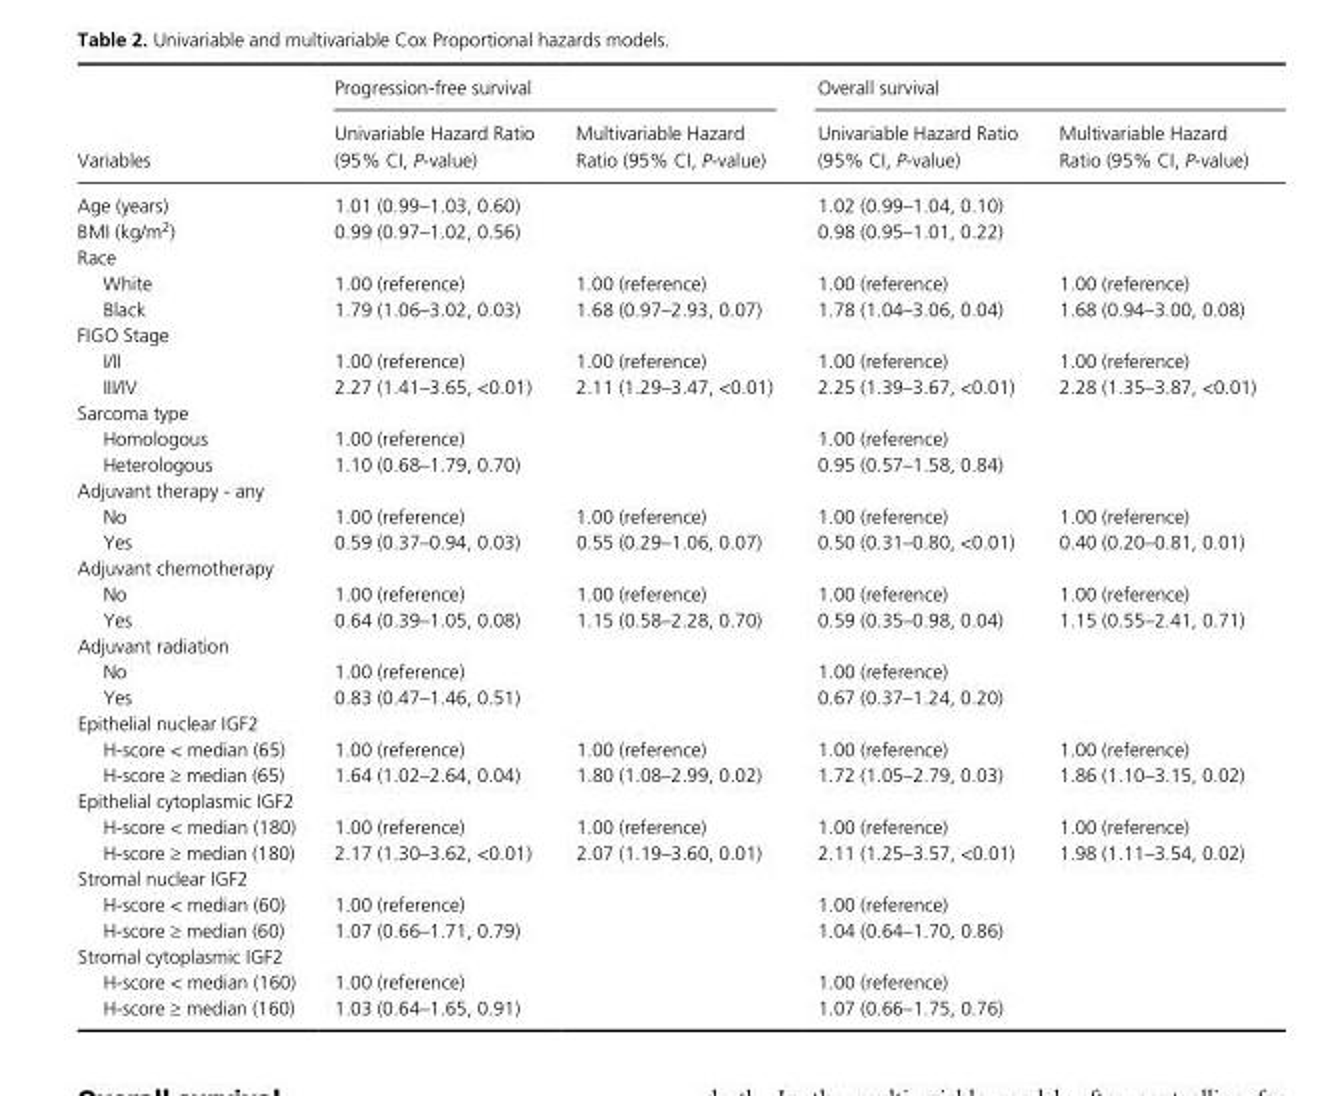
<table><thead><tr><td rowspan="2">Variables</td><td colspan="2">Progression- free survival</td><td colspan="2">Overall survival</td></tr><tr><td>Univariable Hazard Ratio (95% CI, P- value)</td><td>Multivariable Hazard Ratio (95% CI, P- value)</td><td>Univariable Hazard Ratio (95% CI, P- value)</td><td>Multivariable Hazard Ratio (95% CI, P- value)</td></tr></thead><tbody><tr><td>Age (years)</td><td>1.01 (0.99–1.03, 0.60)</td><td></td><td>1.02 (0.99–1.04, 0.10)</td><td></td></tr><tr><td>BMI (kg/m<sup>2</sup>)</td><td>0.99 (0.97–1.02, 0.56)</td><td></td><td>0.98 (0.95–1.01, 0.22)</td><td></td></tr><tr><td colspan="5">Race</td></tr><tr><td>White</td><td>1.00 (reference)</td><td>1.00 (reference)</td><td>1.00 (reference)</td><td>1.00 (reference)</td></tr><tr><td>Black</td><td>1.79 (1.06–3.02, 0.03)</td><td>1.68 (0.97–2.93, 0.07)</td><td>1.78 (1.04–3.06, 0.04)</td><td>1.68 (0.94–3.00, 0.08)</td></tr><tr><td colspan="5">FIGO Stage</td></tr><tr><td>I/II</td><td>1.00 (reference)</td><td>1.00 (reference)</td><td>1.00 (reference)</td><td>1.00 (reference)</td></tr><tr><td>III/IV</td><td>2.27 (1.41–3.65, &lt;0.01)</td><td>2.11 (1.29–3.47, &lt;0.01)</td><td>2.25 (1.39–3.67, &lt;0.01)</td><td>2.28 (1.35–3.87, &lt;0.01)</td></tr><tr><td colspan="5">Sarcoma type</td></tr><tr><td>Homologous</td><td>1.00 (reference)</td><td></td><td>1.00 (reference)</td><td></td></tr><tr><td>Heterologous</td><td>1.10 (0.68–1.79, 0.70)</td><td></td><td>0.95 (0.57–1.58, 0.84)</td><td></td></tr><tr><td colspan="5">Adjuvant therapy - any</td></tr><tr><td>No</td><td>1.00 (reference)</td><td>1.00 (reference)</td><td>1.00 (reference)</td><td>1.00 (reference)</td></tr><tr><td>Yes</td><td>0.59 (0.37–0.94, 0.03)</td><td>0.55 (0.29–1.06, 0.07)</td><td>0.50 (0.31–0.80, &lt;0.01)</td><td>0.40 (0.20–0.81, 0.01)</td></tr><tr><td colspan="5">Adjuvant chemotherapy</td></tr><tr><td>No</td><td>1.00 (reference)</td><td>1.00 (reference)</td><td>1.00 (reference)</td><td>1.00 (reference)</td></tr><tr><td>Yes</td><td>0.64 (0.39–1.05, 0.08)</td><td>1.15 (0.58–2.28, 0.70)</td><td>0.59 (0.35–0.98, 0.04)</td><td>1.15 (0.55–2.41, 0.71)</td></tr><tr><td colspan="5">Adjuvant radiation</td></tr><tr><td>No</td><td>1.00 (reference)</td><td></td><td>1.00 (reference)</td><td></td></tr><tr><td>Yes</td><td>0.83 (0.47–1.46, 0.51)</td><td></td><td>0.67 (0.37–1.24, 0.20)</td><td></td></tr><tr><td colspan="5">Epithelial nuclear IGF2</td></tr><tr><td>H- score &lt; median (65)</td><td>1.00 (reference)</td><td>1.00 (reference)</td><td>1.00 (reference)</td><td>1.00 (reference)</td></tr><tr><td>H- score ≥ median (65)</td><td>1.64 (1.02–2.64, 0.04)</td><td>1.80 (1.08–2.99, 0.02)</td><td>1.72 (1.05–2.79, 0.03)</td><td>1.86 (1.10–3.15, 0.02)</td></tr><tr><td colspan="5">Epithelial cytoplasmic IGF2</td></tr><tr><td>H- score &lt; median (180)</td><td>1.00 (reference)</td><td>1.00 (reference)</td><td>1.00 (reference)</td><td>1.00 (reference)</td></tr><tr><td>H- score ≥ median (180)</td><td>2.17 (1.30–3.62, &lt;0.01)</td><td>2.07 (1.19–3.60, 0.01)</td><td>2.11 (1.25–3.57, &lt;0.01)</td><td>1.98 (1.11–3.54, 0.02)</td></tr><tr><td colspan="5">Stromal nuclear IGF2</td></tr><tr><td>H- score &lt; median (60)</td><td>1.00 (reference)</td><td></td><td>1.00 (reference)</td><td></td></tr><tr><td>H- score ≥ median (60)</td><td>1.07 (0.66–1.71, 0.79)</td><td></td><td>1.04 (0.64–1.70, 0.86)</td><td></td></tr><tr><td colspan="5">Stromal cytoplasmic IGF2</td></tr><tr><td>H- score &lt; median (160)</td><td>1.00 (reference)</td><td></td><td>1.00 (reference)</td><td></td></tr><tr><td>H- score ≥ median (160)</td><td>1.03 (0.64–1.65, 0.91)</td><td></td><td>1.07 (0.66–1.75, 0.76)</td><td></td></tr></tbody></table>